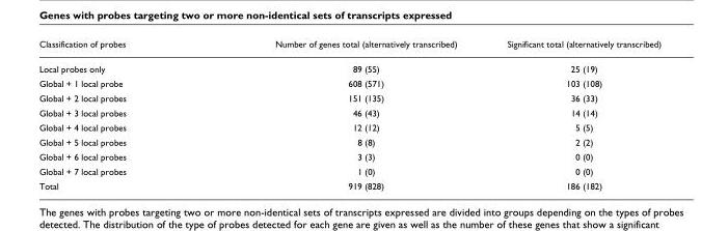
<table><thead><tr><td>Classification of probes</td><td>Number of genes total (alternatively transcribed)</td><td>Significant total (alternatively transcribed)</td></tr></thead><tbody><tr><td>Local probes only</td><td>89 (55)</td><td>25 (19)</td></tr><tr><td>Global + 1 local probe</td><td>608 (571)</td><td>103 (108)</td></tr><tr><td>Global + 2 local probes</td><td>151 (135)</td><td>36 (33)</td></tr><tr><td>Global + 3 local probes</td><td>46 (43)</td><td>14 (14)</td></tr><tr><td>Global + 4 local probes</td><td>12 (12)</td><td>5 (5)</td></tr><tr><td>Global + 5 local probes</td><td>8 (8)</td><td>2 (2)</td></tr><tr><td>Global + 6 local probes</td><td>3 (3)</td><td>0 (0)</td></tr><tr><td>Global + 7 local probes</td><td>1 (0)</td><td>0 (0)</td></tr><tr><td>Total</td><td>919 (828)</td><td>186 (182)</td></tr></tbody></table>